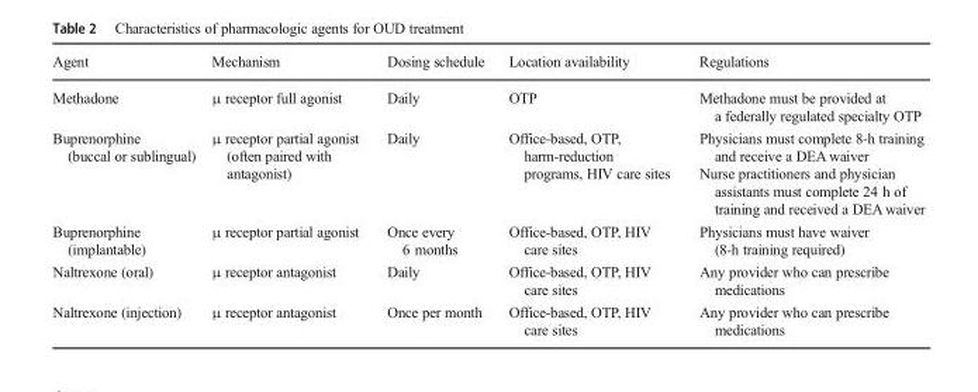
<table><thead><tr><td>Agent</td><td>Mechanism</td><td>Dosing schedule</td><td>Location availability</td><td>Regulations</td></tr></thead><tbody><tr><td>Methadone</td><td>μ receptor full agonist</td><td>Daily</td><td>OTP</td><td>Methadone must be provided at a federally regulated specialty OTP</td></tr><tr><td>Buprenorphine (buccal or sublingual)</td><td>μ receptor partial agonist (often paired with antagonist)</td><td>Daily</td><td>Office-based, OTP, harm-reduction programs, HIV care sites</td><td>Physicians must complete 8-h training and receive a DEA waiver Nurse practitioners and physician assistants must complete 24 h of training and received a DEA waiver</td></tr><tr><td>Buprenorphine (implantable)</td><td>μ receptor partial agonist</td><td>Once every 6 months</td><td>Office-based, OTP, HIV care sites</td><td>Physicians must have waiver (8-h training required)</td></tr><tr><td>Naltrexone (oral)</td><td>μ receptor antagonist</td><td>Daily</td><td>Office-based, OTP, HIV care sites</td><td>Any provider who can prescribe medications</td></tr><tr><td>Naltrexone (injection)</td><td>μ receptor antagonist</td><td>Once per month</td><td>Office-based, OTP, HIV care sites</td><td>Any provider who can prescribe medications</td></tr></tbody></table>